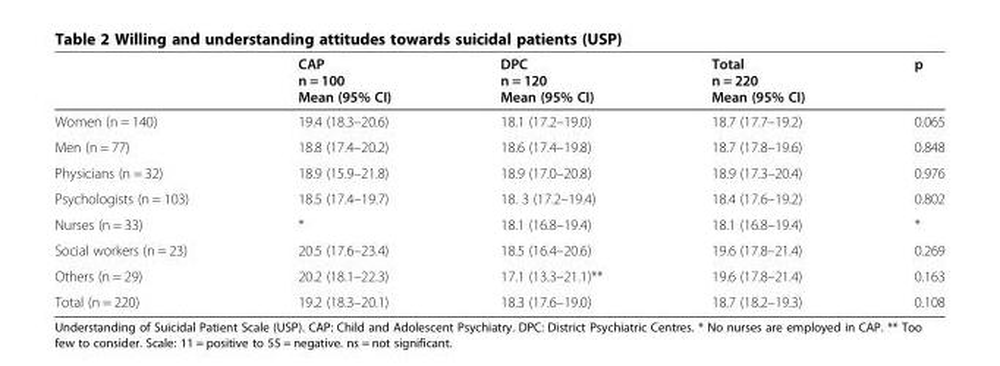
<table><thead><tr><td></td><td>CAP n = 100 Mean (95% CI)</td><td>DPC n = 120 Mean (95% CI)</td><td>Total n = 220 Mean (95% CI)</td><td>p</td></tr></thead><tbody><tr><td>Women (n = 140)</td><td>19.4 (18.3–20.6)</td><td>18.1 (17.2–19.0)</td><td>18.7 (17.7–19.2)</td><td>0.065</td></tr><tr><td>Men (n = 77)</td><td>18.8 (17.4–20.2)</td><td>18.6 (17.4–19.8)</td><td>18.7 (17.8–19.6)</td><td>0.848</td></tr><tr><td>Physicians (n = 32)</td><td>18.9 (15.9–21.8)</td><td>18.9 (17.0–20.8)</td><td>18.9 (17.3–20.4)</td><td>0.976</td></tr><tr><td>Psychologists (n = 103)</td><td>18.5 (17.4–19.7)</td><td>18. 3 (17.2–19.4)</td><td>18.4 (17.6–19.2)</td><td>0.802</td></tr><tr><td>Nurses (n = 33)</td><td>*</td><td>18.1 (16.8–19.4)</td><td>18.1 (16.8–19.4)</td><td>*</td></tr><tr><td>Social workers (n = 23)</td><td>20.5 (17.6–23.4)</td><td>18.5 (16.4–20.6)</td><td>19.6 (17.8–21.4)</td><td>0.269</td></tr><tr><td>Others (n = 29)</td><td>20.2 (18.1–22.3)</td><td>17.1 (13.3–21.1)**</td><td>19.6 (17.8–21.4)</td><td>0.163</td></tr><tr><td>Total (n = 220)</td><td>19.2 (18.3–20.1)</td><td>18.3 (17.6–19.0)</td><td>18.7 (18.2–19.3)</td><td>0.108</td></tr></tbody></table>